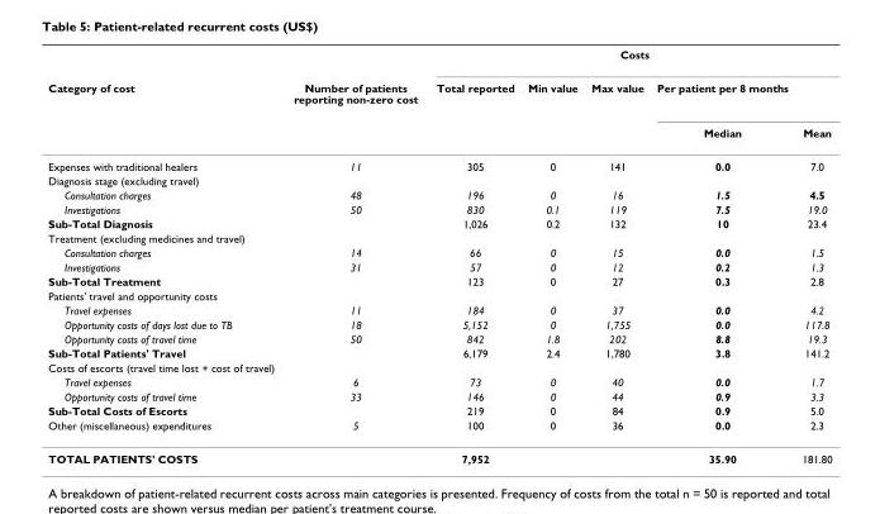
<table><thead><tr><td rowspan="3">Category of cost</td><td rowspan="3">Number of patients reporting non-zero cost</td><td colspan="5">Costs</td></tr><tr><td rowspan="2">Total reported</td><td rowspan="2">Min value</td><td rowspan="2">Max value</td><td rowspan="2">Per patient per 8 months Median</td><td rowspan="2">Mean</td></tr><tr></tr></thead><tbody><tr><td>Expenses with traditional healers</td><td>11</td><td>305</td><td>0</td><td>141</td><td>0.0</td><td>7.0</td></tr><tr><td colspan="7">Diagnosis stage (excluding travel)</td></tr><tr><td>Consultation charges</td><td>48</td><td>196</td><td>0</td><td>16</td><td>1.5</td><td>4.5</td></tr><tr><td>Investigations</td><td>50</td><td>830</td><td>0.1</td><td>119</td><td>7.5</td><td>19.0</td></tr><tr><td>Sub-Total Diagnosis</td><td></td><td>1,026</td><td>0.2</td><td>132</td><td>10</td><td>23.4</td></tr><tr><td colspan="7">Treatment (excluding medicines and travel)</td></tr><tr><td>Consultation charges</td><td>14</td><td>66</td><td>0</td><td>15</td><td>0.0</td><td>1.5</td></tr><tr><td>Investigations</td><td>31</td><td>57</td><td>0</td><td>12</td><td>0.2</td><td>1.3</td></tr><tr><td>Sub-Total Treatment</td><td></td><td>123</td><td>0</td><td>27</td><td>0.3</td><td>2.8</td></tr><tr><td colspan="7">Patients&#x27; travel and opportunity costs</td></tr><tr><td>Travel expenses</td><td>11</td><td>184</td><td>0</td><td>37</td><td>0.0</td><td>4.2</td></tr><tr><td>Opportunity costs of days lost due to TB</td><td>18</td><td>5,152</td><td>0</td><td>1,755</td><td>0.0</td><td>117.8</td></tr><tr><td>Opportunity costs of travel time</td><td>50</td><td>842</td><td>1.8</td><td>202</td><td>8.8</td><td>19.3</td></tr><tr><td>Sub-Total Patients&#x27; Travel</td><td></td><td>6,179</td><td>2.4</td><td>1,780</td><td>3.8</td><td>141.2</td></tr><tr><td colspan="7">Costs of escorts (travel time lost + cost of travel)</td></tr><tr><td>Travel expenses</td><td>6</td><td>73</td><td>0</td><td>40</td><td>0.0</td><td>1.7</td></tr><tr><td>Opportunity costs of travel time</td><td>33</td><td>146</td><td>0</td><td>44</td><td>0.9</td><td>3.3</td></tr><tr><td>Sub-Total Costs of Escorts</td><td></td><td>219</td><td>0</td><td>84</td><td>0.9</td><td>5.0</td></tr><tr><td>Other (miscellaneous) expenditures</td><td>5</td><td>100</td><td>0</td><td>36</td><td>0.0</td><td>2.3</td></tr><tr><td>TOTAL PATIENTS&#x27; COSTS</td><td></td><td>7,952</td><td></td><td></td><td>35.90</td><td>181.80</td></tr></tbody></table>